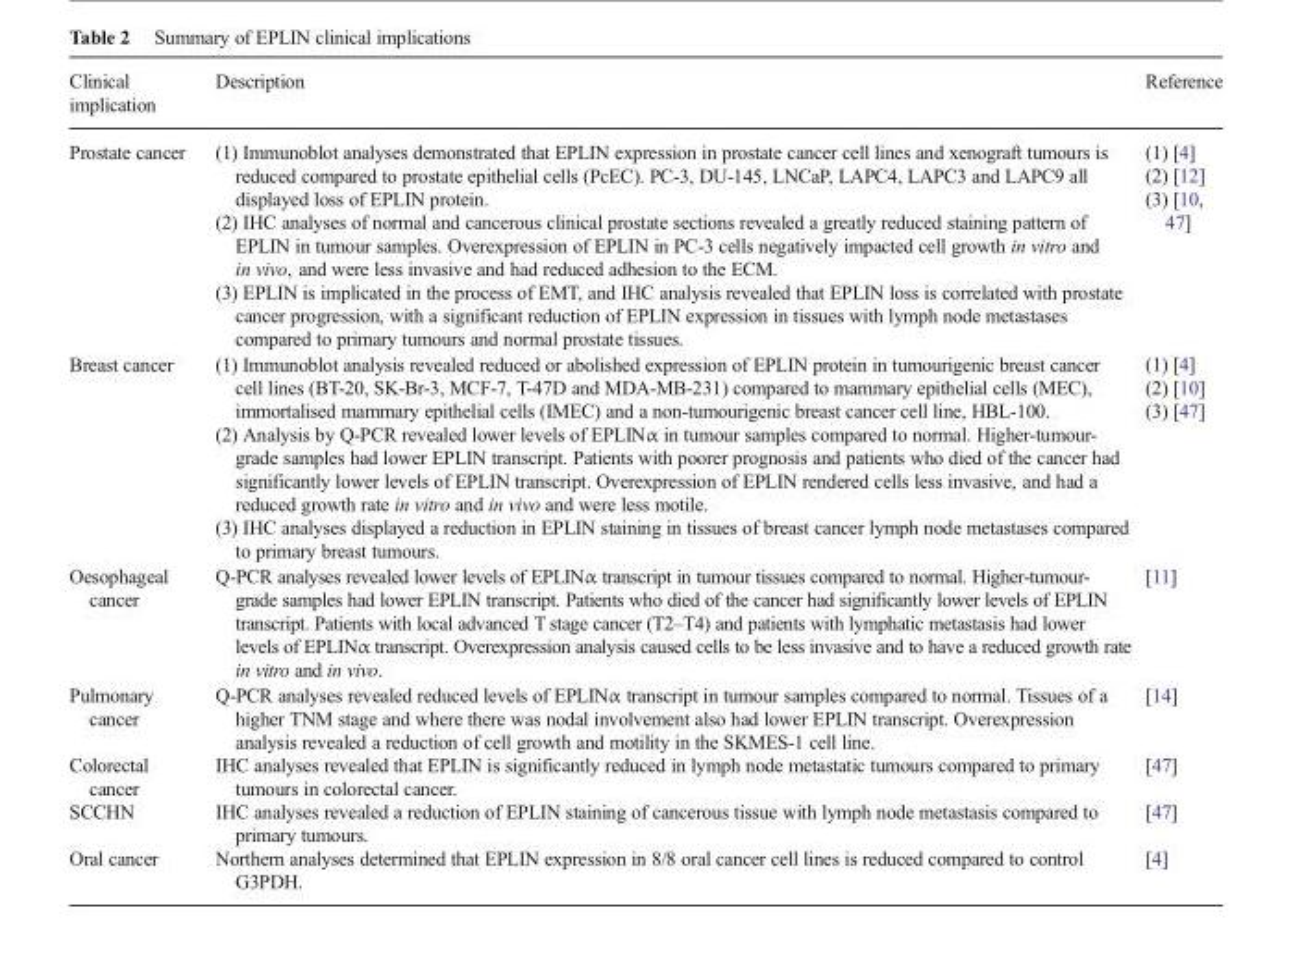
<table><thead><tr><td>Clinical implication</td><td>Description</td><td>Reference</td></tr></thead><tbody><tr><td>Prostate cancer</td><td>(1) Immunoblot analyses demonstrated that EPLIN expression in prostate cancer cell lines and xenograft tumours is reduced compared to prostate epithelial cells (PcEC). PC-3, DU-145, LNCaP, LAPC4, LAPC3 and LAPC9 all displayed loss of EPLIN protein. (2) IHC analyses of normal and cancerous clinical prostate sections revealed a greatly reduced staining pattern of EPLIN in tumour samples. Overexpression of EPLIN in PC-3 cells negatively impacted cell growth in vitro and in vivo, and were less invasive and had reduced adhesion to the ECM. (3) EPLIN is implicated in the process of EMT, and IHC analysis revealed that EPLIN loss is correlated with prostate cancer progression, with a significant reduction of EPLIN expression in tissues with lymph node metastases compared to primary tumours and normal prostate tissues.</td><td>(1) [4] (2) [12] (3) [10, 47]</td></tr><tr><td>Breast cancer</td><td>(1) Immunoblot analysis revealed reduced or abolished expression of EPLIN protein in tumourigenic breast cancer cell lines (BT-20, SK-Br-3, MCF-7, T-47D and MDA-MB-231) compared to mammary epithelial cells (MEC), immortalised mammary epithelial cells (IMEC) and a non-tumourigenic breast cancer cell line, HBL-100. (2) Analysis by Q-PCR revealed lower levels of EPLINα in tumour samples compared to normal. Higher-tumour- grade samples had lower EPLIN transcript. Patients with poorer prognosis and patients who died of the cancer had significantly lower levels of EPLIN transcript. Overexpression of EPLIN rendered cells less invasive, and had a reduced growth rate in vitro and in vivo and were less motile. (3) IHC analyses displayed a reduction in EPLIN staining in tissues of breast cancer lymph node metastases compared to primary breast tumours.</td><td>(1) [4] (2) [10] (3) [47]</td></tr><tr><td>Oesophageal cancer</td><td>Q-PCR analyses revealed lower levels of EPLINα transcript in tumour tissues compared to normal. Higher-tumour- grade samples had lower EPLIN transcript. Patients who died of the cancer had significantly lower levels of EPLIN transcript. Patients with local advanced T stage cancer (T2–T4) and patients with lymphatic metastasis had lower levels of EPLINα transcript. Overexpression analysis caused cells to be less invasive and to have a reduced growth rate in vitro and in vivo.</td><td>[11]</td></tr><tr><td>Pulmonary cancer</td><td>Q-PCR analyses revealed reduced levels of EPLINα transcript in tumour samples compared to normal. Tissues of a higher TNM stage and where there was nodal involvement also had lower EPLIN transcript. Overexpression analysis revealed a reduction of cell growth and motility in the SKMES-1 cell line.</td><td>[14]</td></tr><tr><td>Colorectal cancer</td><td>IHC analyses revealed that EPLIN is significantly reduced in lymph node metastatic tumours compared to primary tumours in colorectal cancer.</td><td>[47]</td></tr><tr><td>SCCHN</td><td>IHC analyses revealed a reduction of EPLIN staining of cancerous tissue with lymph node metastasis compared to primary tumours.</td><td>[47]</td></tr><tr><td>Oral cancer</td><td>Northern analyses determined that EPLIN expression in 8/8 oral cancer cell lines is reduced compared to control G3PDH.</td><td>[4]</td></tr></tbody></table>